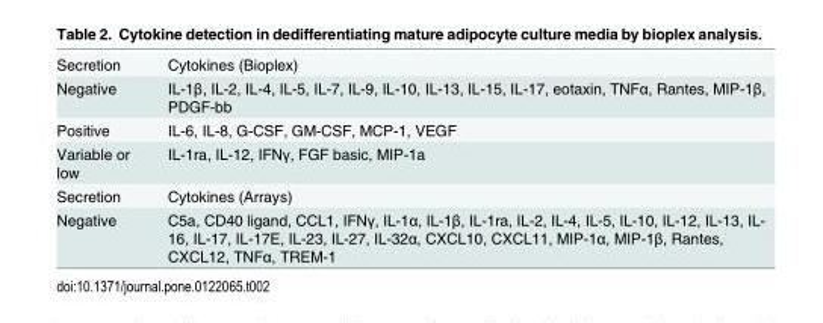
<table><tbody><tr><td>Secretion</td><td>Cytokines (Bioplex)</td></tr><tr><td>Negative</td><td>IL-1β, IL-2, IL-4, IL-5, IL-7, IL-9, IL-10, IL-13, IL-15, IL-17, eotaxin, TNFα, Rantes, MIP-1β, PDGF-bb</td></tr><tr><td>Positive</td><td>IL-6, IL-8, G-CSF, GM-CSF, MCP-1, VEGF</td></tr><tr><td>Variable or low</td><td>IL-1ra, IL-12, IFNγ, FGF basic, MIP-1a</td></tr><tr><td>Secretion</td><td>Cytokines (Arrays)</td></tr><tr><td>Negative</td><td>C5a, CD40 ligand, CCL1, IFNγ, IL-1α, IL-1β, IL-1ra, IL-2, IL-4, IL-5, IL-10, IL-12, IL-13, IL- 16, IL-17, IL-17E, IL-23, IL-27, IL-32α, CXCL10, CXCL11, MIP-1α, MIP-1β, Rantes, CXCL12, TNFα, TREM-1</td></tr></tbody></table>